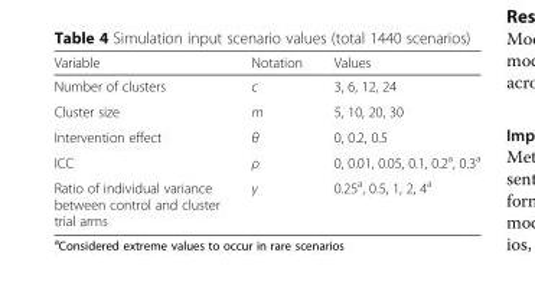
<table><thead><tr><td>Variable</td><td>Notation</td><td>Values</td></tr></thead><tbody><tr><td>Number of clusters</td><td>c</td><td>3, 6, 12, 24</td></tr><tr><td>Cluster size</td><td>m</td><td>5, 10, 20, 30</td></tr><tr><td>Intervention effect</td><td>θ</td><td>0, 0.2, 0.5</td></tr><tr><td>ICC</td><td>ρ</td><td>0, 0.01, 0.05, 0.1, 0.2<sup>a</sup>, 0.3<sup>a</sup></td></tr><tr><td>Ratio of individual variance between control and cluster trial arms</td><td>γ</td><td>0.25<sup>a</sup>, 0.5, 1, 2, 4<sup>a</sup></td></tr></tbody></table>